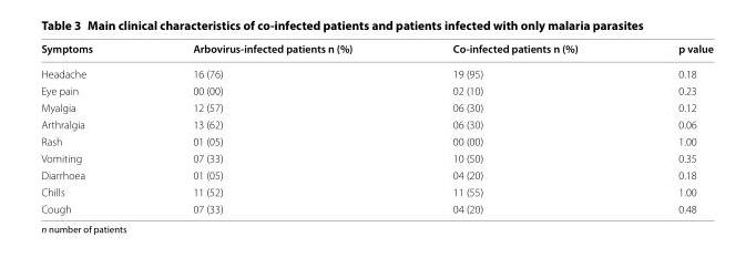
<table><thead><tr><td>Symptoms</td><td>Arbovirus‑infected patients n (%)</td><td>Co‑infected patients n (%)</td><td>p value</td></tr></thead><tbody><tr><td>Headache</td><td>16 (76)</td><td>19 (95)</td><td>0.18</td></tr><tr><td>Eye pain</td><td>00 (00)</td><td>02 (10)</td><td>0.23</td></tr><tr><td>Myalgia</td><td>12 (57)</td><td>06 (30)</td><td>0.12</td></tr><tr><td>Arthralgia</td><td>13 (62)</td><td>06 (30)</td><td>0.06</td></tr><tr><td>Rash</td><td>01 (05)</td><td>00 (00)</td><td>1.00</td></tr><tr><td>Vomiting</td><td>07 (33)</td><td>10 (50)</td><td>0.35</td></tr><tr><td>Diarrhoea</td><td>01 (05)</td><td>04 (20)</td><td>0.18</td></tr><tr><td>Chills</td><td>11 (52)</td><td>11 (55)</td><td>1.00</td></tr><tr><td>Cough</td><td>07 (33)</td><td>04 (20)</td><td>0.48</td></tr></tbody></table>